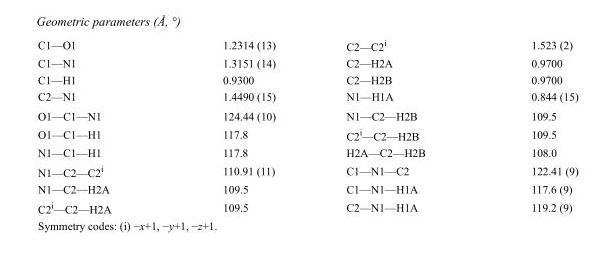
<table><tbody><tr><td>C1—O1</td><td>1.2314 (13)</td><td>C2—C2<sup>i</sup></td><td>1.523 (2)</td></tr><tr><td>C1—N1</td><td>1.3151 (14)</td><td>C2—H2A</td><td>0.9700</td></tr><tr><td>C1—H1</td><td>0.9300</td><td>C2—H2B</td><td>0.9700</td></tr><tr><td>C2—N1</td><td>1.4490 (15)</td><td>N1—H1A</td><td>0.844 (15)</td></tr><tr><td>O1—C1—N1</td><td>124.44 (10)</td><td>N1—C2—H2B</td><td>109.5</td></tr><tr><td>O1—C1—H1</td><td>117.8</td><td>C2<sup>i</sup>—C2—H2B</td><td>109.5</td></tr><tr><td>N1—C1—H1</td><td>117.8</td><td>H2A—C2—H2B</td><td>108.0</td></tr><tr><td>N1—C2—C2<sup>i</sup></td><td>110.91 (11)</td><td>C1—N1—C2</td><td>122.41 (9)</td></tr><tr><td>N1—C2—H2A</td><td>109.5</td><td>C1—N1—H1A</td><td>117.6 (9)</td></tr><tr><td>C2<sup>i</sup>—C2—H2A</td><td>109.5</td><td>C2—N1—H1A</td><td>119.2 (9)</td></tr></tbody></table>